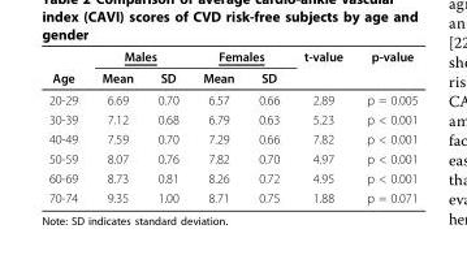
<table><thead><tr><td rowspan="2">Age</td><td colspan="2">Males</td><td colspan="2">Females</td><td rowspan="2">t-value</td><td rowspan="2">p-value</td></tr><tr><td>Mean</td><td>SD</td><td>Mean</td><td>SD</td></tr></thead><tbody><tr><td>20-29</td><td>6.69</td><td>0.70</td><td>6.57</td><td>0.66</td><td>2.89</td><td>p = 0.005</td></tr><tr><td>30-39</td><td>7.12</td><td>0.68</td><td>6.79</td><td>0.63</td><td>5.23</td><td>p &lt; 0.001</td></tr><tr><td>40-49</td><td>7.59</td><td>0.70</td><td>7.29</td><td>0.66</td><td>7.82</td><td>p &lt; 0.001</td></tr><tr><td>50-59</td><td>8.07</td><td>0.76</td><td>7.82</td><td>0.70</td><td>4.97</td><td>p &lt; 0.001</td></tr><tr><td>60-69</td><td>8.73</td><td>0.81</td><td>8.26</td><td>0.72</td><td>4.95</td><td>p &lt; 0.001</td></tr><tr><td>70-74</td><td>9.35</td><td>1.00</td><td>8.71</td><td>0.75</td><td>1.88</td><td>p = 0.071</td></tr></tbody></table>